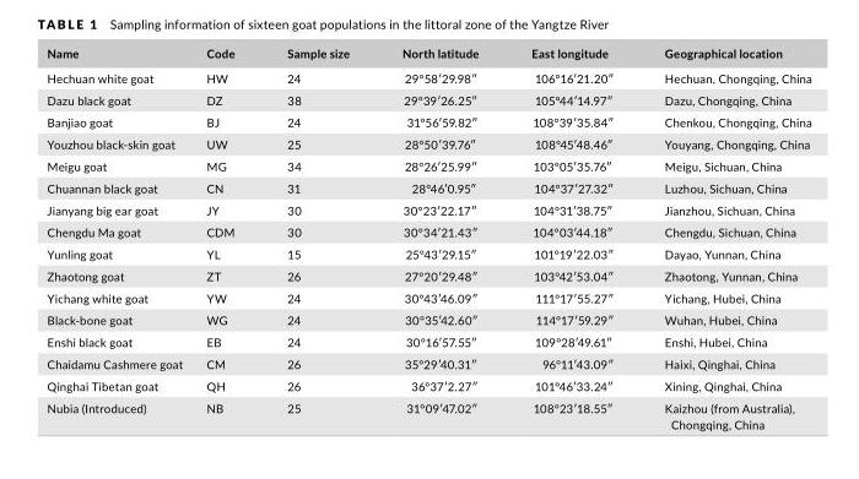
<table><thead><tr><td>Name</td><td>Code</td><td>Sample size</td><td>North latitude</td><td>East longitude</td><td>Geographical location</td></tr></thead><tbody><tr><td>Hechuan white goat</td><td>HW</td><td>24</td><td>29°58′29.98″</td><td>106°16′21.20″</td><td>Hechuan, Chongqing, China</td></tr><tr><td>Dazu black goat</td><td>DZ</td><td>38</td><td>29°39′26.25″</td><td>105°44′14.97″</td><td>Dazu, Chongqing, China</td></tr><tr><td>Banjiao goat</td><td>BJ</td><td>24</td><td>31°56′59.82″</td><td>108°39′35.84″</td><td>Chenkou, Chongqing, China</td></tr><tr><td>Youzhou black- skin goat</td><td>UW</td><td>25</td><td>28°50′39.76″</td><td>108°45′48.46″</td><td>Youyang, Chongqing, China</td></tr><tr><td>Meigu goat</td><td>MG</td><td>34</td><td>28°26′25.99″</td><td>103°05′35.76″</td><td>Meigu, Sichuan, China</td></tr><tr><td>Chuannan black goat</td><td>CN</td><td>31</td><td>28°46′0.95″</td><td>104°37′27.32″</td><td>Luzhou, Sichuan, China</td></tr><tr><td>Jianyang big ear goat</td><td>JY</td><td>30</td><td>30°23′22.17″</td><td>104°31′38.75″</td><td>Jianzhou, Sichuan, China</td></tr><tr><td>Chengdu Ma goat</td><td>CDM</td><td>30</td><td>30°34′21.43″</td><td>104°03′44.18″</td><td>Chengdu, Sichuan, China</td></tr><tr><td>Yunling goat</td><td>YL</td><td>15</td><td>25°43′29.15″</td><td>101°19′22.03″</td><td>Dayao, Yunnan, China</td></tr><tr><td>Zhaotong goat</td><td>ZT</td><td>26</td><td>27°20′29.48″</td><td>103°42′53.04″</td><td>Zhaotong, Yunnan, China</td></tr><tr><td>Yichang white goat</td><td>YW</td><td>24</td><td>30°43′46.09″</td><td>111°17′55.27″</td><td>Yichang, Hubei, China</td></tr><tr><td>Black- bone goat</td><td>WG</td><td>24</td><td>30°35′42.60″</td><td>114°17′59.29″</td><td>Wuhan, Hubei, China</td></tr><tr><td>Enshi black goat</td><td>EB</td><td>24</td><td>30°16′57.55″</td><td>109°28′49.61″</td><td>Enshi, Hubei, China</td></tr><tr><td>Chaidamu Cashmere goat</td><td>CM</td><td>26</td><td>35°29′40.31″</td><td>96°11′43.09″</td><td>Haixi, Qinghai, China</td></tr><tr><td>Qinghai Tibetan goat</td><td>QH</td><td>26</td><td>36°37′2.27″</td><td>101°46′33.24″</td><td>Xining, Qinghai, China</td></tr><tr><td>Nubia (Introduced)</td><td>NB</td><td>25</td><td>31°09′47.02″</td><td>108°23′18.55″</td><td>Kaizhou (from Australia), Chongqing, China</td></tr></tbody></table>